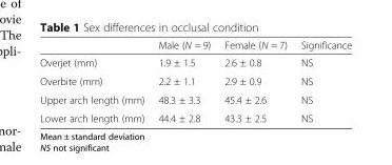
<table><thead><tr><td></td><td>Male (N = 9)</td><td>Female (N = 7)</td><td>Significance</td></tr></thead><tbody><tr><td>Overjet (mm)</td><td>1.9 ± 1.5</td><td>2.6 ± 0.8</td><td>NS</td></tr><tr><td>Overbite (mm)</td><td>2.2 ± 1.1</td><td>2.9 ± 0.9</td><td>NS</td></tr><tr><td>Upper arch length (mm)</td><td>48.3 ± 3.3</td><td>45.4 ± 2.6</td><td>NS</td></tr><tr><td>Lower arch length (mm)</td><td>44.4 ± 2.8</td><td>43.3 ± 2.5</td><td>NS</td></tr></tbody></table>